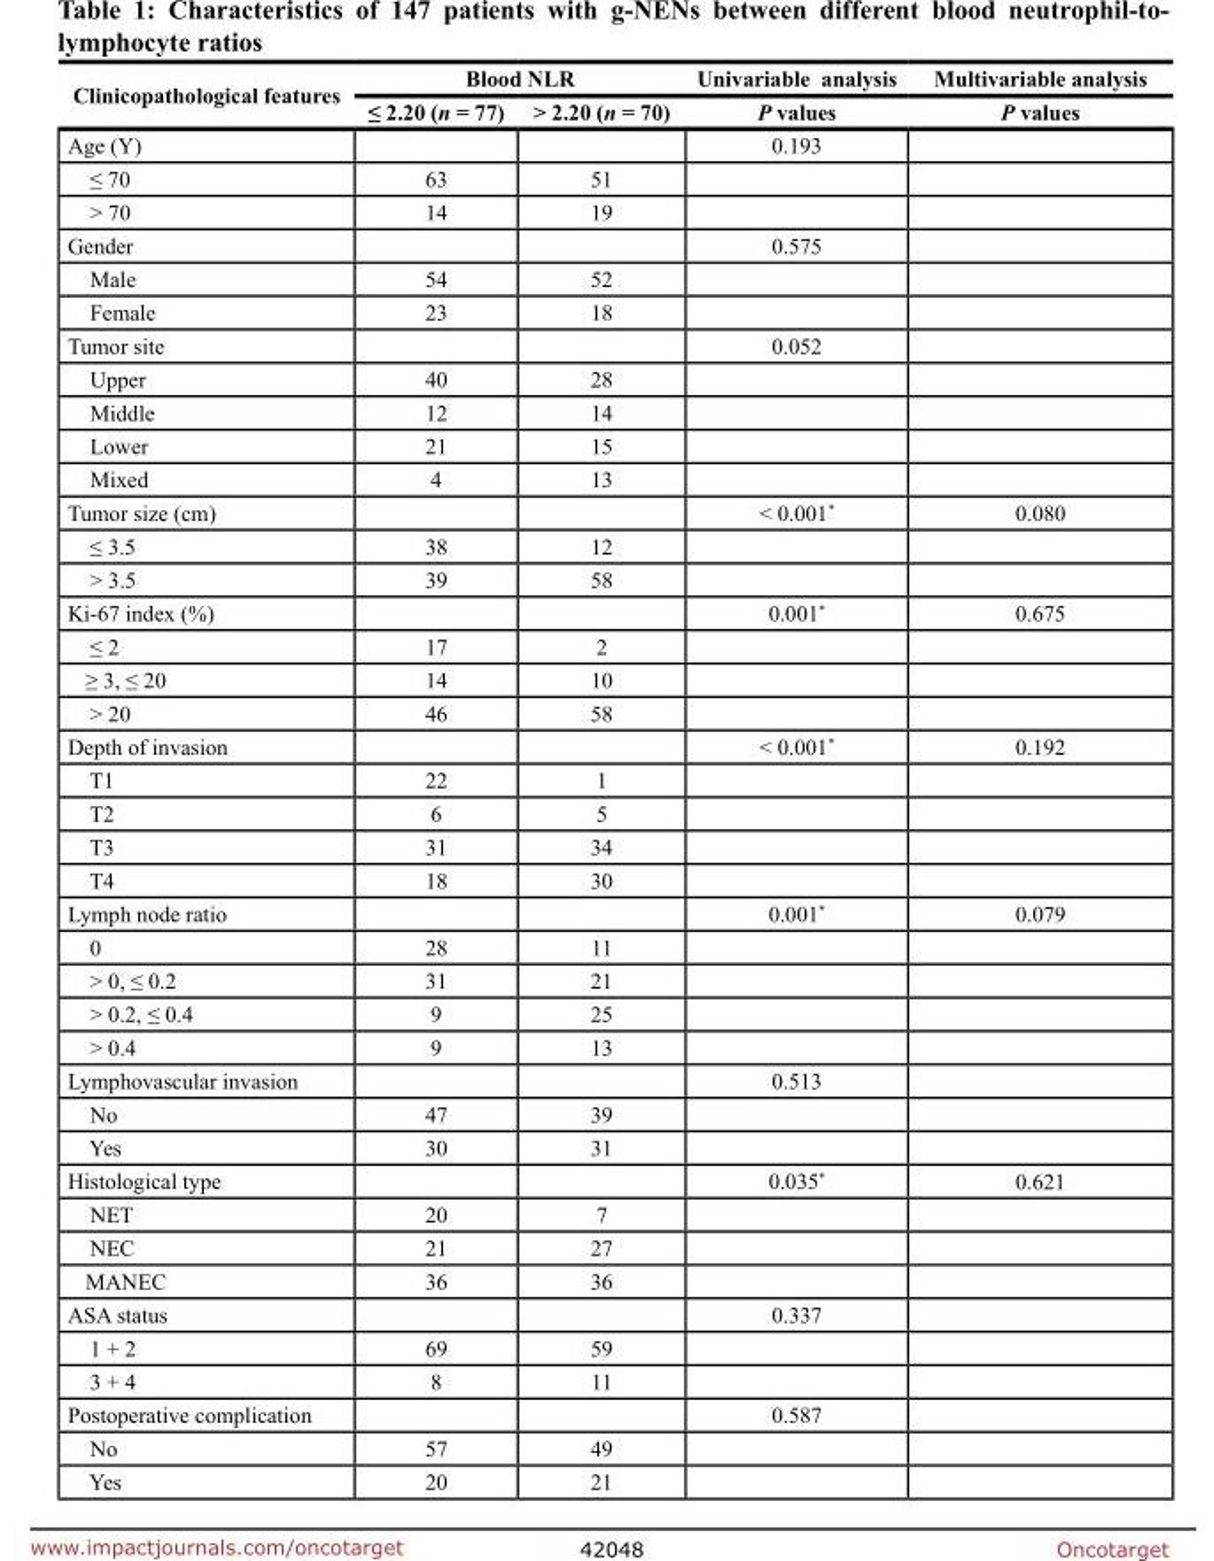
<table><thead><tr><td rowspan="2">clinicopathological features</td><td colspan="2">blood nLr</td><td rowspan="2">univariable analysis P values</td><td rowspan="2">Multivariable analysis P values</td></tr><tr><td>≤ 2.20 (n = 77)</td><td>&gt; 2.20 (n = 70)</td></tr></thead><tbody><tr><td>Age (Y)</td><td></td><td></td><td>0.193</td><td></td></tr><tr><td>≤ 70</td><td>63</td><td>51</td><td></td><td></td></tr><tr><td>&gt; 70</td><td>14</td><td>19</td><td></td><td></td></tr><tr><td>Gender</td><td></td><td></td><td>0.575</td><td></td></tr><tr><td>Male</td><td>54</td><td>52</td><td></td><td></td></tr><tr><td>Female</td><td>23</td><td>18</td><td></td><td></td></tr><tr><td>Tumor site</td><td></td><td></td><td>0.052</td><td></td></tr><tr><td>Upper</td><td>40</td><td>28</td><td></td><td></td></tr><tr><td>Middle</td><td>12</td><td>14</td><td></td><td></td></tr><tr><td>Lower</td><td>21</td><td>15</td><td></td><td></td></tr><tr><td>Mixed</td><td>4</td><td>13</td><td></td><td></td></tr><tr><td>Tumor size (cm)</td><td></td><td></td><td>&lt; 0.001*</td><td>0.080</td></tr><tr><td>≤ 3.5</td><td>38</td><td>12</td><td></td><td></td></tr><tr><td>&gt; 3.5</td><td>39</td><td>58</td><td></td><td></td></tr><tr><td>Ki-67 index (%)</td><td></td><td></td><td>0.001*</td><td>0.675</td></tr><tr><td>≤ 2</td><td>17</td><td>2</td><td></td><td></td></tr><tr><td>≥ 3, ≤ 20</td><td>14</td><td>10</td><td></td><td></td></tr><tr><td>&gt; 20</td><td>46</td><td>58</td><td></td><td></td></tr><tr><td>Depth of invasion</td><td></td><td></td><td>&lt; 0.001*</td><td>0.192</td></tr><tr><td>T1</td><td>22</td><td>1</td><td></td><td></td></tr><tr><td>T2</td><td>6</td><td>5</td><td></td><td></td></tr><tr><td>T3</td><td>31</td><td>34</td><td></td><td></td></tr><tr><td>T4</td><td>18</td><td>30</td><td></td><td></td></tr><tr><td>Lymph node ratio</td><td></td><td></td><td>0.001*</td><td>0.079</td></tr><tr><td>0</td><td>28</td><td>11</td><td></td><td></td></tr><tr><td>&gt; 0, ≤ 0.2</td><td>31</td><td>21</td><td></td><td></td></tr><tr><td>&gt; 0.2, ≤ 0.4</td><td>9</td><td>25</td><td></td><td></td></tr><tr><td>&gt; 0.4</td><td>9</td><td>13</td><td></td><td></td></tr><tr><td>Lymphovascular invasion</td><td></td><td></td><td>0.513</td><td></td></tr><tr><td>No</td><td>47</td><td>39</td><td></td><td></td></tr><tr><td>Yes</td><td>30</td><td>31</td><td></td><td></td></tr><tr><td>Histological type</td><td></td><td></td><td>0.035*</td><td>0.621</td></tr><tr><td>NET</td><td>20</td><td>7</td><td></td><td></td></tr><tr><td>NEC</td><td>21</td><td>27</td><td></td><td></td></tr><tr><td>MANEC</td><td>36</td><td>36</td><td></td><td></td></tr><tr><td>ASA status</td><td></td><td></td><td>0.337</td><td></td></tr><tr><td>1 + 2</td><td>69</td><td>59</td><td></td><td></td></tr><tr><td>3 + 4</td><td>8</td><td>11</td><td></td><td></td></tr><tr><td>Postoperative complication</td><td></td><td></td><td>0.587</td><td></td></tr><tr><td>No</td><td>57</td><td>49</td><td></td><td></td></tr><tr><td>Yes</td><td>20</td><td>21</td><td></td><td></td></tr></tbody></table>